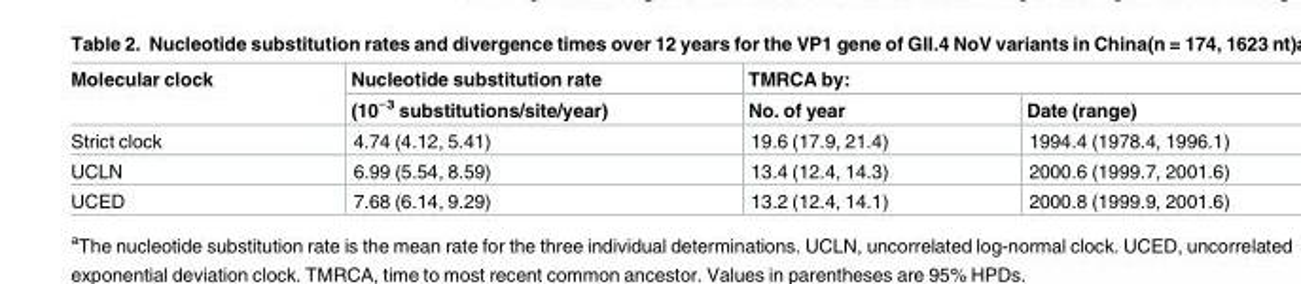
<table><thead><tr><td rowspan="2">Molecular clock</td><td rowspan="2">Nucleotide substitution rate (10<sup>−3</sup> substitutions/site/year)</td><td colspan="2">TMRCA by:</td></tr><tr><td>No. of year</td><td>Date (range)</td></tr></thead><tbody><tr><td>Strict clock</td><td>4.74 (4.12, 5.41)</td><td>19.6 (17.9, 21.4)</td><td>1994.4 (1978.4, 1996.1)</td></tr><tr><td>UCLN</td><td>6.99 (5.54, 8.59)</td><td>13.4 (12.4, 14.3)</td><td>2000.6 (1999.7, 2001.6)</td></tr><tr><td>UCED</td><td>7.68 (6.14, 9.29)</td><td>13.2 (12.4, 14.1)</td><td>2000.8 (1999.9, 2001.6)</td></tr></tbody></table>